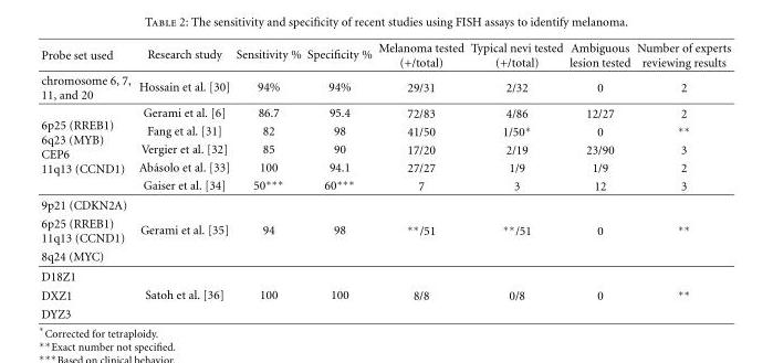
<table><thead><tr><td>Probe set used</td><td>Research study</td><td>Sensitivity %</td><td>Specificity %</td><td>Melanoma tested (+/total)</td><td>Typical nevi tested (+/total)</td><td>Ambiguous lesion tested</td><td>Number of experts reviewing results</td></tr></thead><tbody><tr><td>chromosome 6, 7, 11, and 20</td><td>Hossain et al. [30]</td><td>94%</td><td>94%</td><td>29/31</td><td>2/32</td><td>0</td><td>2</td></tr><tr><td rowspan="5">6p25 (RREB1) 6q23 (MYB) CEP6 11q13 (CCND1)</td><td>Gerami et al. [6]</td><td>86.7</td><td>95.4</td><td>72/83</td><td>4/86</td><td>12/27</td><td>2</td></tr><tr><td>Fang et al. [31]</td><td>82</td><td>98</td><td>41/50</td><td>1/50∗</td><td>0</td><td>∗∗</td></tr><tr><td>Vergier et al. [32]</td><td>85</td><td>90</td><td>17/20</td><td>2/19</td><td>23/90</td><td>3</td></tr><tr><td>Ab´asolo et al. [33]</td><td>100</td><td>94.1</td><td>27/27</td><td>1/9</td><td>1/9</td><td>2</td></tr><tr><td>Gaiser et al. [34]</td><td>50∗∗∗</td><td>60∗∗∗</td><td>7</td><td>3</td><td>12</td><td>3</td></tr><tr><td colspan="8">9p21 (CDKN2A)</td></tr><tr><td>6p25 (RREB1) 11q13 (CCND1)</td><td>Gerami et al. [35]</td><td>94</td><td>98</td><td>∗∗/51</td><td>∗∗/51</td><td>0</td><td>∗∗</td></tr><tr><td colspan="8">8q24 (MYC)</td></tr><tr><td colspan="8">D18Z1</td></tr><tr><td>DXZ1</td><td>Satoh et al. [36]</td><td>100</td><td>100</td><td>8/8</td><td>0/8</td><td>0</td><td>∗∗</td></tr><tr><td>DYZ3</td><td></td><td></td><td></td><td></td><td></td><td></td><td></td></tr></tbody></table>